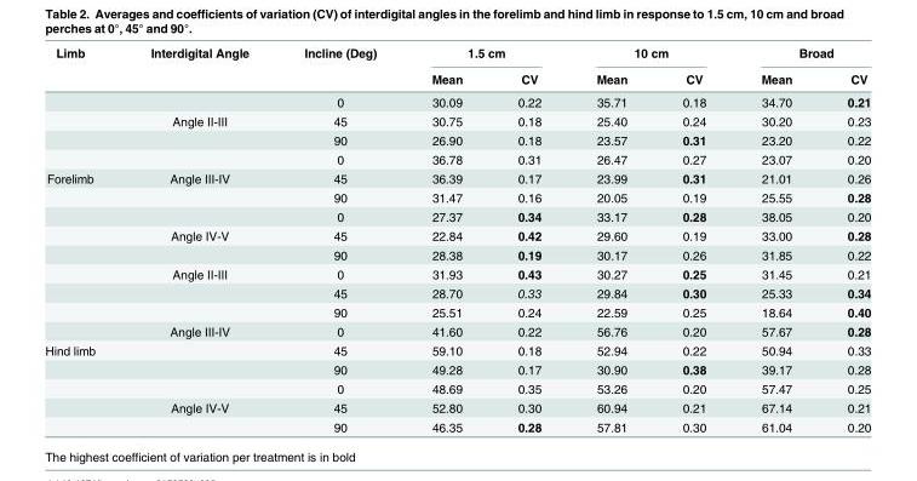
<table><thead><tr><td rowspan="2">Limb</td><td rowspan="2">Interdigital Angle</td><td rowspan="2">Incline (Deg)</td><td colspan="2">1.5 cm</td><td colspan="2">10 cm</td><td colspan="2">Broad</td></tr><tr><td>Mean</td><td>CV</td><td>Mean</td><td>CV</td><td>Mean</td><td>CV</td></tr></thead><tbody><tr><td></td><td></td><td>0</td><td>30.09</td><td>0.22</td><td>35.71</td><td>0.18</td><td>34.70</td><td>0.21</td></tr><tr><td></td><td>Angle II-III</td><td>45</td><td>30.75</td><td>0.18</td><td>25.40</td><td>0.24</td><td>30.20</td><td>0.23</td></tr><tr><td></td><td></td><td>90</td><td>26.90</td><td>0.18</td><td>23.57</td><td>0.31</td><td>23.20</td><td>0.22</td></tr><tr><td></td><td></td><td>0</td><td>36.78</td><td>0.31</td><td>26.47</td><td>0.27</td><td>23.07</td><td>0.20</td></tr><tr><td rowspan="9">Forelimb</td><td>Angle III-IV</td><td>45</td><td>36.39</td><td>0.17</td><td>23.99</td><td>0.31</td><td>21.01</td><td>0.26</td></tr><tr><td></td><td>90</td><td>31.47</td><td>0.16</td><td>20.05</td><td>0.19</td><td>25.55</td><td>0.28</td></tr><tr><td></td><td>0</td><td>27.37</td><td>0.34</td><td>33.17</td><td>0.28</td><td>38.05</td><td>0.20</td></tr><tr><td>Angle IV-V</td><td>45</td><td>22.84</td><td>0.42</td><td>29.60</td><td>0.19</td><td>33.00</td><td>0.28</td></tr><tr><td></td><td>90</td><td>28.38</td><td>0.19</td><td>30.17</td><td>0.26</td><td>31.85</td><td>0.22</td></tr><tr><td>Angle II-III</td><td>0</td><td>31.93</td><td>0.43</td><td>30.27</td><td>0.25</td><td>31.45</td><td>0.21</td></tr><tr><td></td><td>45</td><td>28.70</td><td>0.33</td><td>29.84</td><td>0.30</td><td>25.33</td><td>0.34</td></tr><tr><td></td><td>90</td><td>25.51</td><td>0.24</td><td>22.59</td><td>0.25</td><td>18.64</td><td>0.40</td></tr><tr><td>Angle III-IV</td><td>0</td><td>41.60</td><td>0.22</td><td>56.76</td><td>0.20</td><td>57.67</td><td>0.28</td></tr><tr><td rowspan="5">Hind limb</td><td></td><td>45</td><td>59.10</td><td>0.18</td><td>52.94</td><td>0.22</td><td>50.94</td><td>0.33</td></tr><tr><td></td><td>90</td><td>49.28</td><td>0.17</td><td>30.90</td><td>0.38</td><td>39.17</td><td>0.28</td></tr><tr><td></td><td>0</td><td>48.69</td><td>0.35</td><td>53.26</td><td>0.20</td><td>57.47</td><td>0.25</td></tr><tr><td>Angle IV-V</td><td>45</td><td>52.80</td><td>0.30</td><td>60.94</td><td>0.21</td><td>67.14</td><td>0.21</td></tr><tr><td></td><td>90</td><td>46.35</td><td>0.28</td><td>57.81</td><td>0.30</td><td>61.04</td><td>0.20</td></tr></tbody></table>